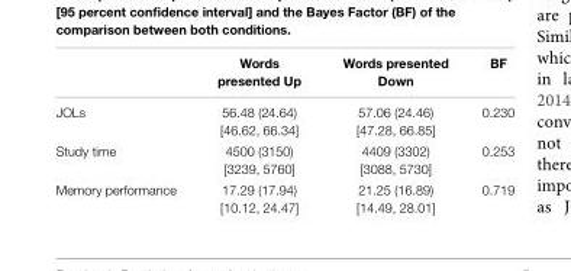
<table><thead><tr><td></td><td>Words presented Up</td><td>Words presented Down</td><td>BF</td></tr></thead><tbody><tr><td>JOLs</td><td>56.48 (24.64) [46.62, 66.34]</td><td>57.06 (24.46) [47.28, 66.85]</td><td>0.230</td></tr><tr><td>Study time</td><td>4500 (3150) [3239, 5760]</td><td>4409 (3302) [3088, 5730]</td><td>0.253</td></tr><tr><td>Memory performance</td><td>17.29 (17.94) [10.12, 24.47]</td><td>21.25 (16.89) [14.49, 28.01]</td><td>0.719</td></tr></tbody></table>